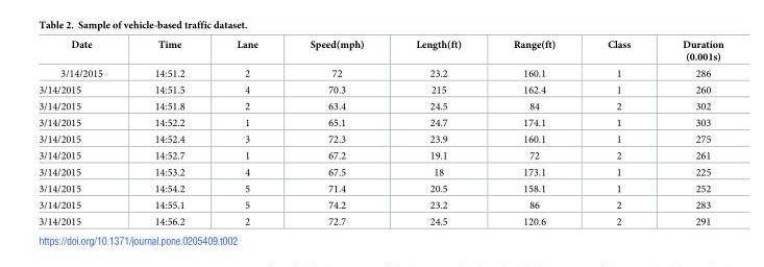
<table><thead><tr><td>Date</td><td>Time</td><td>Lane</td><td>Speed(mph)</td><td>Length(ft)</td><td>Range(ft)</td><td>Class</td><td>Duration (0.001s)</td></tr></thead><tbody><tr><td>3/14/2015</td><td>14:51.2</td><td>2</td><td>72</td><td>23.2</td><td>160.1</td><td>1</td><td>286</td></tr><tr><td>3/14/2015</td><td>14:51.5</td><td>4</td><td>70.3</td><td>215</td><td>162.4</td><td>1</td><td>260</td></tr><tr><td>3/14/2015</td><td>14:51.8</td><td>2</td><td>63.4</td><td>24.5</td><td>84</td><td>2</td><td>302</td></tr><tr><td>3/14/2015</td><td>14:52.2</td><td>1</td><td>65.1</td><td>24.7</td><td>174.1</td><td>1</td><td>303</td></tr><tr><td>3/14/2015</td><td>14:52.4</td><td>3</td><td>72.3</td><td>23.9</td><td>160.1</td><td>1</td><td>275</td></tr><tr><td>3/14/2015</td><td>14:52.7</td><td>1</td><td>67.2</td><td>19.1</td><td>72</td><td>2</td><td>261</td></tr><tr><td>3/14/2015</td><td>14:53.2</td><td>4</td><td>67.5</td><td>18</td><td>173.1</td><td>1</td><td>225</td></tr><tr><td>3/14/2015</td><td>14:54.2</td><td>5</td><td>71.4</td><td>20.5</td><td>158.1</td><td>1</td><td>252</td></tr><tr><td>3/14/2015</td><td>14:55.1</td><td>5</td><td>74.2</td><td>23.2</td><td>86</td><td>2</td><td>283</td></tr><tr><td>3/14/2015</td><td>14:56.2</td><td>2</td><td>72.7</td><td>24.5</td><td>120.6</td><td>2</td><td>291</td></tr></tbody></table>